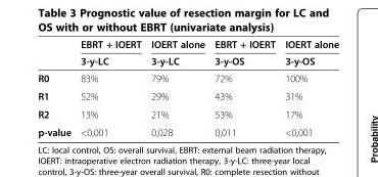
<table><thead><tr><td rowspan="2"></td><td rowspan="2">EBRT + IOERT 3-y-LC</td><td rowspan="2">IOERT alone 3-y-LC</td><td rowspan="2">EBRT + IOERT 3-y-OS</td><td rowspan="2">IOERT alone 3-y-OS</td></tr><tr></tr></thead><tbody><tr><td>R0</td><td>83%</td><td>79%</td><td>72%</td><td>100%</td></tr><tr><td>R1</td><td>52%</td><td>29%</td><td>43%</td><td>31%</td></tr><tr><td>R2</td><td>13%</td><td>21%</td><td>53%</td><td>17%</td></tr><tr><td>p-value</td><td>&lt;0,001</td><td>0,028</td><td>0,011</td><td>&lt;0,001</td></tr></tbody></table>